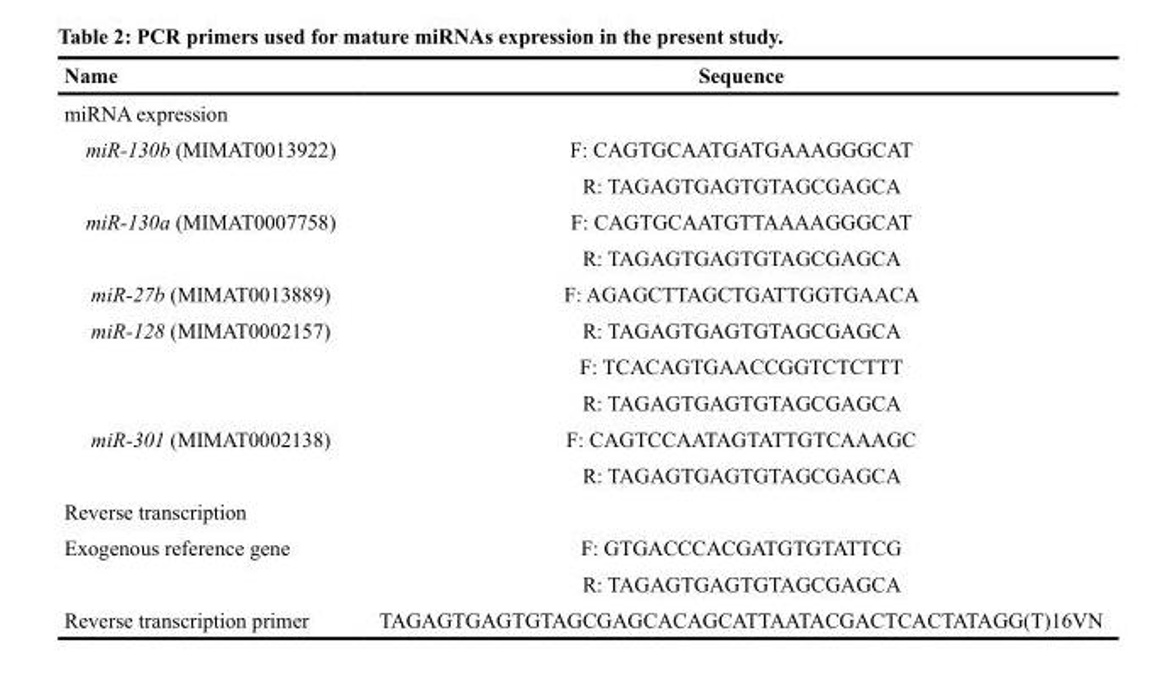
<table><thead><tr><td>Name</td><td>Sequence</td></tr></thead><tbody><tr><td colspan="2">miRNA expression</td></tr><tr><td rowspan="2">miR-130b (MIMAT0013922)</td><td>F: CAGTGCAATGATGAAAGGGCAT</td></tr><tr><td>R: TAGAGTGAGTGTAGCGAGCA</td></tr><tr><td rowspan="2">miR-130a (MIMAT0007758)</td><td>F: CAGTGCAATGTTAAAAGGGCAT</td></tr><tr><td>R: TAGAGTGAGTGTAGCGAGCA</td></tr><tr><td>miR-27b (MIMAT0013889)</td><td>F: AGAGCTTAGCTGATTGGTGAACA</td></tr><tr><td rowspan="3">miR-128 (MIMAT0002157)</td><td>R: TAGAGTGAGTGTAGCGAGCA</td></tr><tr><td>F: TCACAGTGAACCGGTCTCTTT</td></tr><tr><td>R: TAGAGTGAGTGTAGCGAGCA</td></tr><tr><td rowspan="2">miR-301 (MIMAT0002138)</td><td>F: CAGTCCAATAGTATTGTCAAAGC</td></tr><tr><td>R: TAGAGTGAGTGTAGCGAGCA</td></tr><tr><td colspan="2">Reverse transcription</td></tr><tr><td rowspan="2">Exogenous reference gene</td><td>F: GTGACCCACGATGTGTATTCG</td></tr><tr><td>R: TAGAGTGAGTGTAGCGAGCA</td></tr><tr><td>Reverse transcription primer</td><td>TAGAGTGAGTGTAGCGAGCACAGCATTAATACGACTCACTATAGG(T)16VN</td></tr></tbody></table>